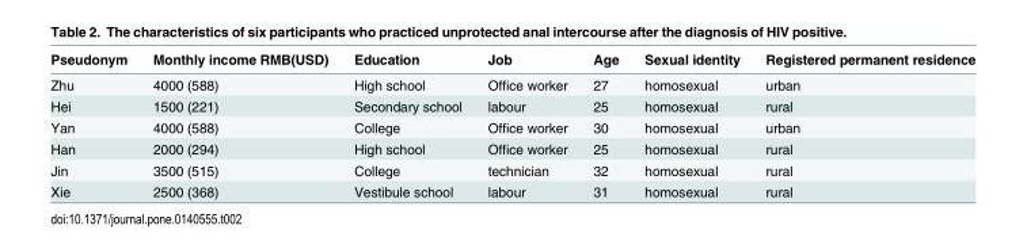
<table><thead><tr><td>Pseudonym</td><td>Monthly income RMB(USD)</td><td>Education</td><td>Job</td><td>Age</td><td>Sexual identity</td><td>Registered permanent residence</td></tr></thead><tbody><tr><td>Zhu</td><td>4000 (588)</td><td>High school</td><td>Office worker</td><td>27</td><td>homosexual</td><td>urban</td></tr><tr><td>Hei</td><td>1500 (221)</td><td>Secondary school</td><td>labour</td><td>25</td><td>homosexual</td><td>rural</td></tr><tr><td>Yan</td><td>4000 (588)</td><td>College</td><td>Office worker</td><td>30</td><td>homosexual</td><td>urban</td></tr><tr><td>Han</td><td>2000 (294)</td><td>High school</td><td>Office worker</td><td>25</td><td>homosexual</td><td>rural</td></tr><tr><td>Jin</td><td>3500 (515)</td><td>College</td><td>technician</td><td>32</td><td>homosexual</td><td>rural</td></tr><tr><td>Xie</td><td>2500 (368)</td><td>Vestibule school</td><td>labour</td><td>31</td><td>homosexual</td><td>rural</td></tr></tbody></table>